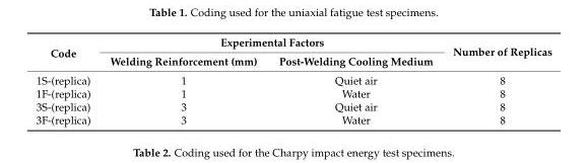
<table><thead><tr><td rowspan="2">Code</td><td colspan="2">Experimental Factors</td><td rowspan="2">Number of Replicas</td></tr><tr><td>Welding Reinforcement (mm)</td><td>Post-Welding Cooling Medium</td></tr></thead><tbody><tr><td>1S-(replica)</td><td>1</td><td>Quiet air</td><td>8</td></tr><tr><td>1F-(replica)</td><td>1</td><td>Water</td><td>8</td></tr><tr><td>3S-(replica)</td><td>3</td><td>Quiet air</td><td>8</td></tr><tr><td>3F-(replica)</td><td>3</td><td>Water</td><td>8</td></tr></tbody></table>